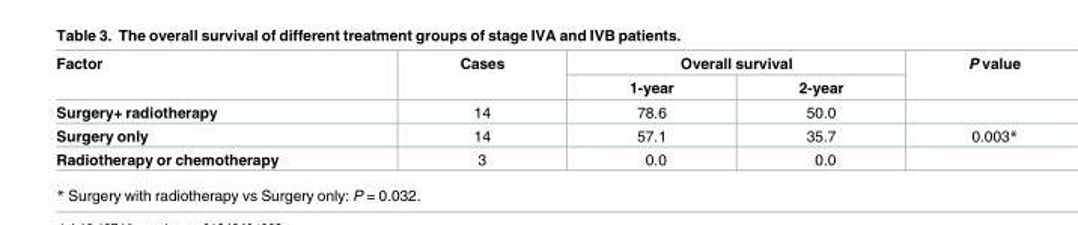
<table><thead><tr><td rowspan="2">Factor</td><td rowspan="2">Cases</td><td colspan="2">Overall survival</td><td rowspan="2">P value</td></tr><tr><td>1-year</td><td>2-year</td></tr></thead><tbody><tr><td>Surgery+ radiotherapy</td><td>14</td><td>78.6</td><td>50.0</td><td></td></tr><tr><td>Surgery only</td><td>14</td><td>57.1</td><td>35.7</td><td>0.003*</td></tr><tr><td>Radiotherapy or chemotherapy</td><td>3</td><td>0.0</td><td>0.0</td><td></td></tr></tbody></table>